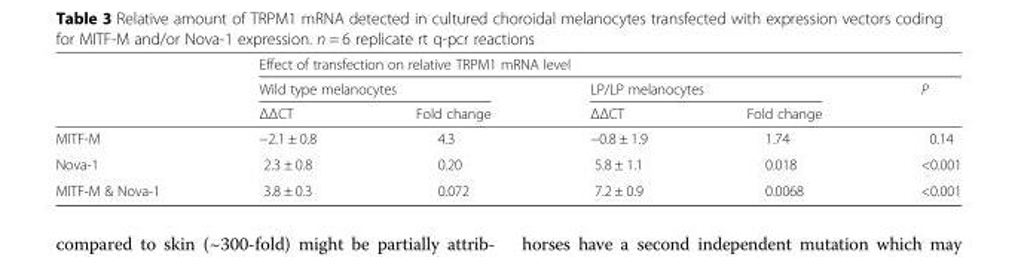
<table><thead><tr><td rowspan="3"></td><td colspan="5">Effect of transfection on relative TRPM1 mRNA level</td></tr><tr><td colspan="2">Wild type melanocytes</td><td colspan="2">LP/LP melanocytes</td><td rowspan="2">P</td></tr><tr><td>ΔΔCT</td><td>Fold change</td><td>ΔΔCT</td><td>Fold change</td></tr></thead><tbody><tr><td>MITF-M</td><td>−2.1 ± 0.8</td><td>4.3</td><td>−0.8 ± 1.9</td><td>1.74</td><td>0.14</td></tr><tr><td>Nova-1</td><td>2.3 ± 0.8</td><td>0.20</td><td>5.8 ± 1.1</td><td>0.018</td><td>&lt;0.001</td></tr><tr><td>MITF-M &amp; Nova-1</td><td>3.8 ± 0.3</td><td>0.072</td><td>7.2 ± 0.9</td><td>0.0068</td><td>&lt;0.001</td></tr></tbody></table>